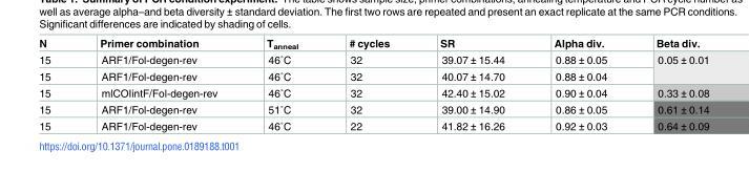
<table><thead><tr><td>N</td><td>Primer combination</td><td>T<sub>anneal</sub></td><td># cycles</td><td>SR</td><td>Alpha div.</td><td>Beta div.</td></tr></thead><tbody><tr><td>15</td><td>ARF1/Fol-degen-rev</td><td>46˚C</td><td>32</td><td>39.07 ± 15.44</td><td>0.88 ± 0.05</td><td rowspan="2">0.05 ± 0.01</td></tr><tr><td>15</td><td>ARF1/Fol-degen-rev</td><td>46˚C</td><td>32</td><td>40.07 ± 14.70</td><td>0.88 ± 0.04</td></tr><tr><td>15</td><td>mlCOIintF/Fol-degen-rev</td><td>46˚C</td><td>32</td><td>42.40 ± 15.02</td><td>0.90 ± 0.04</td><td>0.33 ± 0.08</td></tr><tr><td>15</td><td>ARF1/Fol-degen-rev</td><td>51˚C</td><td>32</td><td>39.00 ± 14.90</td><td>0.86 ± 0.05</td><td>0.61 ± 0.14</td></tr><tr><td>15</td><td>ARF1/Fol-degen-rev</td><td>46˚C</td><td>22</td><td>41.82 ± 16.26</td><td>0.92 ± 0.03</td><td>0.64 ± 0.09</td></tr></tbody></table>